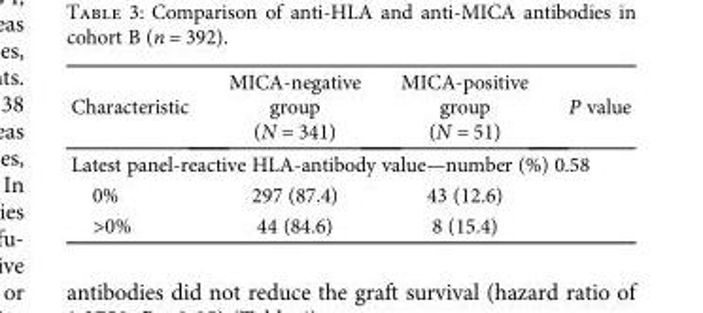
<table><thead><tr><td>Characteristic</td><td>MICA-negative group (N = 341)</td><td>MICA-positive group (N = 51)</td><td>P value</td></tr></thead><tbody><tr><td colspan="4">Latest panel-reactive HLA-antibody value—number (%) 0.58</td></tr><tr><td>0%</td><td>297 (87.4)</td><td>43 (12.6)</td><td></td></tr><tr><td>&gt;0%</td><td>44 (84.6)</td><td>8 (15.4)</td><td></td></tr></tbody></table>